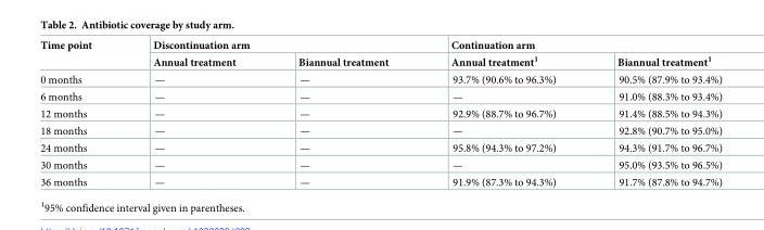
<table><thead><tr><td rowspan="2">Time point</td><td colspan="2">Discontinuation arm</td><td colspan="2">Continuation arm</td></tr><tr><td>Annual treatment</td><td>Biannual treatment</td><td>Annual treatment<sup>1</sup></td><td>Biannual treatment<sup>1</sup></td></tr></thead><tbody><tr><td>0 months</td><td>—</td><td>—</td><td>93.7% (90.6% to 96.3%)</td><td>90.5% (87.9% to 93.4%)</td></tr><tr><td>6 months</td><td>—</td><td>—</td><td>—</td><td>91.0% (88.3% to 93.4%)</td></tr><tr><td>12 months</td><td>—</td><td>—</td><td>92.9% (88.7% to 96.7%)</td><td>91.4% (88.5% to 94.3%)</td></tr><tr><td>18 months</td><td>—</td><td>—</td><td>—</td><td>92.8% (90.7% to 95.0%)</td></tr><tr><td>24 months</td><td>—</td><td>—</td><td>95.8% (94.3% to 97.2%)</td><td>94.3% (91.7% to 96.7%)</td></tr><tr><td>30 months</td><td>—</td><td>—</td><td>—</td><td>95.0% (93.5% to 96.5%)</td></tr><tr><td>36 months</td><td>—</td><td>—</td><td>91.9% (87.3% to 94.3%)</td><td>91.7% (87.8% to 94.7%)</td></tr></tbody></table>